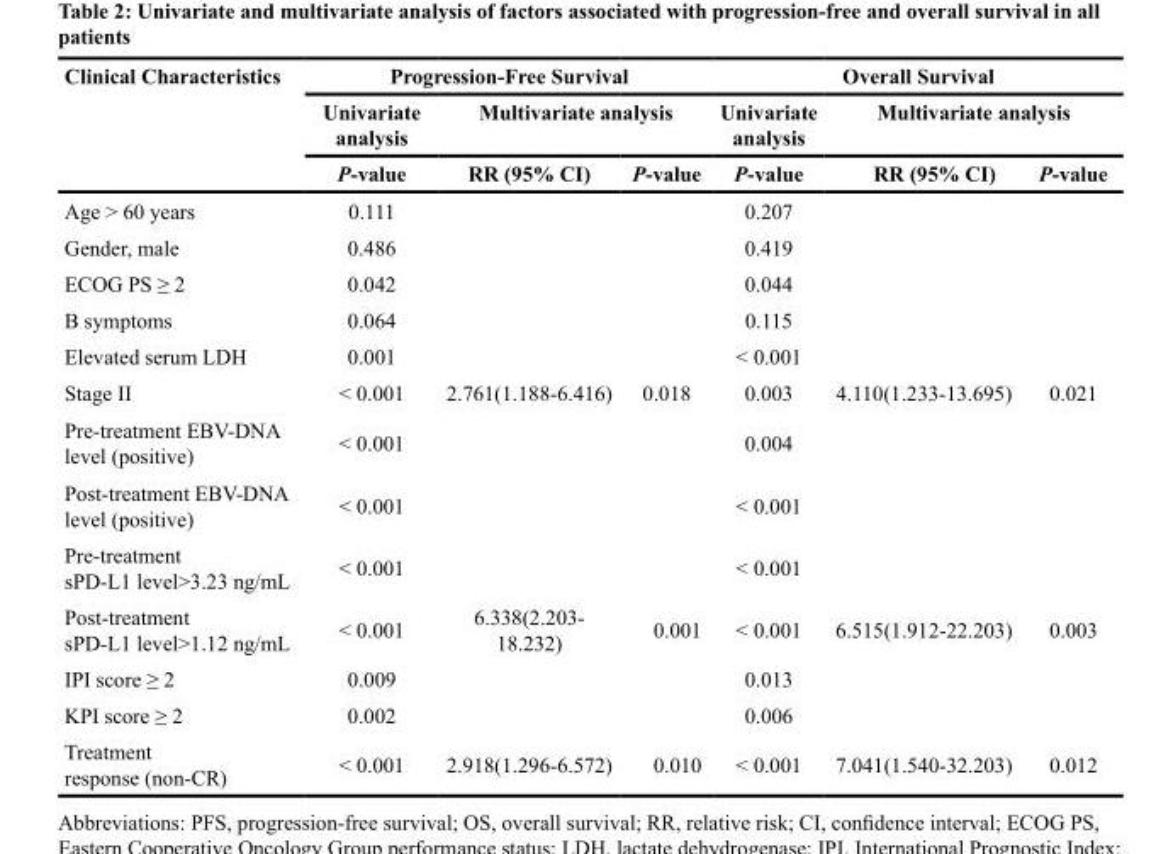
<table><thead><tr><td rowspan="3">Clinical Characteristics</td><td colspan="3">Progression-Free Survival</td><td colspan="3">Overall Survival</td></tr><tr><td rowspan="2">Univariate analysis P-value</td><td colspan="2">Multivariate analysis</td><td rowspan="2">Univariate analysis P-value</td><td colspan="2">Multivariate analysis</td></tr><tr><td>RR (95% CI)</td><td>P-value</td><td>RR (95% CI)</td><td>P-value</td></tr></thead><tbody><tr><td>Age &gt; 60 years</td><td>0.111</td><td></td><td></td><td>0.207</td><td></td><td></td></tr><tr><td>Gender, male</td><td>0.486</td><td></td><td></td><td>0.419</td><td></td><td></td></tr><tr><td>ECOG PS ≥ 2</td><td>0.042</td><td></td><td></td><td>0.044</td><td></td><td></td></tr><tr><td>B symptoms</td><td>0.064</td><td></td><td></td><td>0.115</td><td></td><td></td></tr><tr><td>Elevated serum LDH</td><td>0.001</td><td></td><td></td><td>&lt; 0.001</td><td></td><td></td></tr><tr><td>Stage II</td><td>&lt; 0.001</td><td>2.761(1.188-6.416)</td><td>0.018</td><td>0.003</td><td>4.110(1.233-13.695)</td><td>0.021</td></tr><tr><td>Pre-treatment EBV-DNA level (positive)</td><td>&lt; 0.001</td><td></td><td></td><td>0.004</td><td></td><td></td></tr><tr><td>Post-treatment EBV-DNA level (positive)</td><td>&lt; 0.001</td><td></td><td></td><td>&lt; 0.001</td><td></td><td></td></tr><tr><td>Pre-treatment sPD-L1 level&gt;3.23 ng/mL</td><td>&lt; 0.001</td><td></td><td></td><td>&lt; 0.001</td><td></td><td></td></tr><tr><td>Post-treatment sPD-L1 level&gt;1.12 ng/mL</td><td>&lt; 0.001</td><td>6.338(2.203- 18.232)</td><td>0.001</td><td>&lt; 0.001</td><td>6.515(1.912-22.203)</td><td>0.003</td></tr><tr><td>IPI score ≥ 2</td><td>0.009</td><td></td><td></td><td>0.013</td><td></td><td></td></tr><tr><td>KPI score ≥ 2</td><td>0.002</td><td></td><td></td><td>0.006</td><td></td><td></td></tr><tr><td>Treatment response (non-CR)</td><td>&lt; 0.001</td><td>2.918(1.296-6.572)</td><td>0.010</td><td>&lt; 0.001</td><td>7.041(1.540-32.203)</td><td>0.012</td></tr></tbody></table>